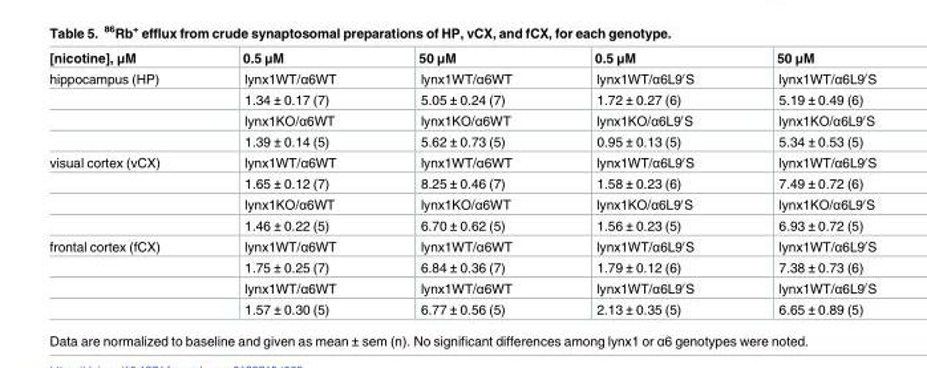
<table><thead><tr><td>[nicotine], μM</td><td>0.5 μM</td><td>50 μM</td><td>0.5 μM</td><td>50 μM</td></tr></thead><tbody><tr><td rowspan="4">hippocampus (HP)</td><td>lynx1WT/α6WT</td><td>lynx1WT/α6WT</td><td>lynx1WT/α6L9′S</td><td>lynx1WT/α6L9′S</td></tr><tr><td>1.34 ± 0.17 (7)</td><td>5.05 ± 0.24 (7)</td><td>1.72 ± 0.27 (6)</td><td>5.19 ± 0.49 (6)</td></tr><tr><td>lynx1KO/α6WT</td><td>lynx1KO/α6WT</td><td>lynx1KO/α6L9′S</td><td>lynx1KO/α6L9′S</td></tr><tr><td>1.39 ± 0.14 (5)</td><td>5.62 ± 0.73 (5)</td><td>0.95 ± 0.13 (5)</td><td>5.34 ± 0.53 (5)</td></tr><tr><td rowspan="4">visual cortex (vCX)</td><td>lynx1WT/α6WT</td><td>lynx1WT/α6WT</td><td>lynx1WT/α6L9′S</td><td>lynx1WT/α6L9′S</td></tr><tr><td>1.65 ± 0.12 (7)</td><td>8.25 ± 0.46 (7)</td><td>1.58 ± 0.23 (6)</td><td>7.49 ± 0.72 (6)</td></tr><tr><td>lynx1KO/α6WT</td><td>lynx1KO/α6WT</td><td>lynx1KO/α6L9′S</td><td>lynx1KO/α6L9′S</td></tr><tr><td>1.46 ± 0.22 (5)</td><td>6.70 ± 0.62 (5)</td><td>1.56 ± 0.23 (5)</td><td>6.93 ± 0.72 (5)</td></tr><tr><td rowspan="4">frontal cortex (fCX)</td><td>lynx1WT/α6WT</td><td>lynx1WT/α6WT</td><td>lynx1WT/α6L9′S</td><td>lynx1WT/α6L9′S</td></tr><tr><td>1.75 ± 0.25 (7)</td><td>6.84 ± 0.36 (7)</td><td>1.79 ± 0.12 (6)</td><td>7.38 ± 0.73 (6)</td></tr><tr><td>lynx1WT/α6WT</td><td>lynx1WT/α6WT</td><td>lynx1WT/α6L9′S</td><td>lynx1WT/α6L9′S</td></tr><tr><td>1.57 ± 0.30 (5)</td><td>6.77 ± 0.56 (5)</td><td>2.13 ± 0.35 (5)</td><td>6.65 ± 0.89 (5)</td></tr></tbody></table>